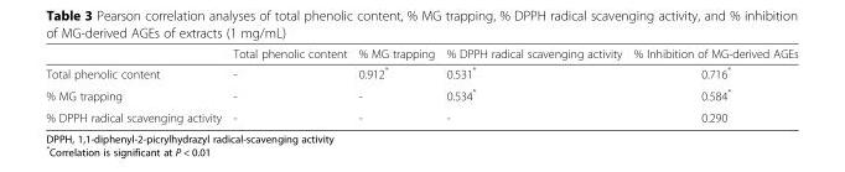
<table><thead><tr><td></td><td>Total phenolic content</td><td>% MG trapping</td><td>% DPPH radical scavenging activity</td><td>% Inhibition of MG-derived AGEs</td></tr></thead><tbody><tr><td>Total phenolic content</td><td>-</td><td>0.912*</td><td>0.531*</td><td>0.716*</td></tr><tr><td>% MG trapping</td><td>-</td><td>-</td><td>0.534*</td><td>0.584*</td></tr><tr><td>% DPPH radical scavenging activity</td><td>-</td><td>-</td><td>-</td><td>0.290</td></tr></tbody></table>